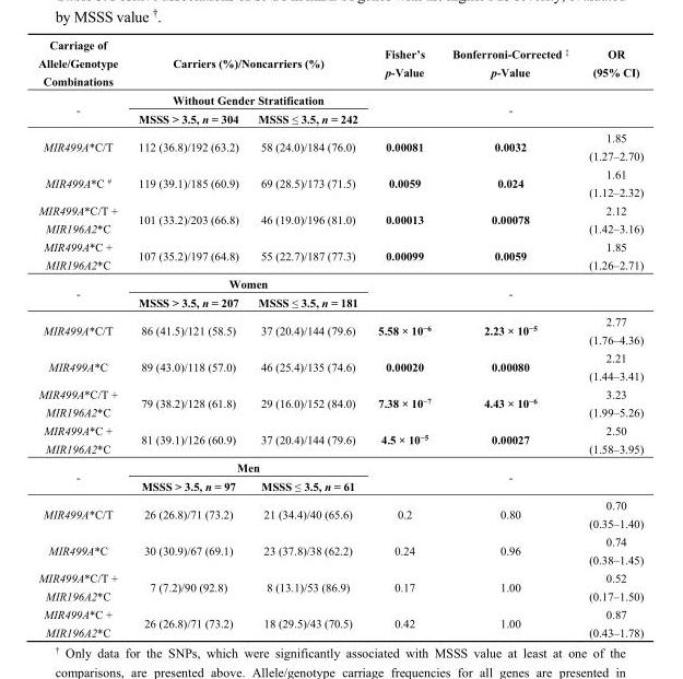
<table><thead><tr><td rowspan="3">Carriage of Allele/Genotype Combinations -</td><td rowspan="2" colspan="2">Carriers (%)/Noncarriers (%) Without Gender Stratification</td><td>Fisher’s p-Value</td><td>Bonferroni-Corrected <sup>‡</sup> p-Value</td><td>OR (95% CI)</td></tr><tr><td rowspan="2" colspan="3">-</td></tr><tr><td>MSSS &gt; 3.5, n = 304</td><td>MSSS ≤ 3.5, n = 242</td></tr></thead><tbody><tr><td>MIR499A*C/T</td><td>112 (36.8)/192 (63.2)</td><td>58 (24.0)/184 (76.0)</td><td>0.00081</td><td>0.0032</td><td>1.85 (1.27–2.70)</td></tr><tr><td>MIR499A*C <sup>#</sup></td><td>119 (39.1)/185 (60.9)</td><td>69 (28.5)/173 (71.5)</td><td>0.0059</td><td>0.024</td><td>1.61 (1.12–2.32)</td></tr><tr><td>MIR499A*C/T + MIR196A2*C</td><td>101 (33.2)/203 (66.8)</td><td>46 (19.0)/196 (81.0)</td><td>0.00013</td><td>0.00078</td><td>2.12 (1.42–3.16)</td></tr><tr><td>MIR499A*C + MIR196A2*C</td><td>107 (35.2)/197 (64.8)</td><td>55 (22.7)/187 (77.3)</td><td>0.00099</td><td>0.0059</td><td>1.85 (1.26–2.71)</td></tr><tr><td rowspan="2">-</td><td colspan="2">Women</td><td rowspan="2" colspan="3">-</td></tr><tr><td>MSSS &gt; 3.5, n = 207</td><td>MSSS ≤ 3.5, n = 181</td></tr><tr><td>MIR499A*C/T</td><td>86 (41.5)/121 (58.5)</td><td>37 (20.4)/144 (79.6)</td><td>5.58 × 10<sup>−6</sup></td><td>2.23 × 10<sup>−5</sup></td><td>2.77 (1.76–4.36)</td></tr><tr><td>MIR499A*C</td><td>89 (43.0)/118 (57.0)</td><td>46 (25.4)/135 (74.6)</td><td>0.00020</td><td>0.00080</td><td>2.21 (1.44–3.41)</td></tr><tr><td>MIR499A*C/T + MIR196A2*C</td><td>79 (38.2)/128 (61.8)</td><td>29 (16.0)/152 (84.0)</td><td>7.38 × 10<sup>−7</sup></td><td>4.43 × 10<sup>−6</sup></td><td>3.23 (1.99–5.26)</td></tr><tr><td>MIR499A*C + MIR196A2*C</td><td>81 (39.1)/126 (60.9)</td><td>37 (20.4)/144 (79.6)</td><td>4.5 × 10<sup>−5</sup></td><td>0.00027</td><td>2.50 (1.58–3.95)</td></tr><tr><td rowspan="2">-</td><td colspan="2">Men</td><td rowspan="2" colspan="3">-</td></tr><tr><td>MSSS &gt; 3.5, n = 97</td><td>MSSS ≤ 3.5, n = 61</td></tr><tr><td>MIR499A*C/T</td><td>26 (26.8)/71 (73.2)</td><td>21 (34.4)/40 (65.6)</td><td>0.2</td><td>0.80</td><td>0.70 (0.35–1.40)</td></tr><tr><td>MIR499A*C</td><td>30 (30.9)/67 (69.1)</td><td>23 (37.8)/38 (62.2)</td><td>0.24</td><td>0.96</td><td>0.74 (0.38–1.45)</td></tr><tr><td>MIR499A*C/T + MIR196A2*C</td><td>7 (7.2)/90 (92.8)</td><td>8 (13.1)/53 (86.9)</td><td>0.17</td><td>1.00</td><td>0.52 (0.17–1.50)</td></tr><tr><td>MIR499A*C + MIR196A2*C</td><td>26 (26.8)/71 (73.2)</td><td>18 (29.5)/43 (70.5)</td><td>0.42</td><td>1.00</td><td>0.87 (0.43–1.78)</td></tr></tbody></table>